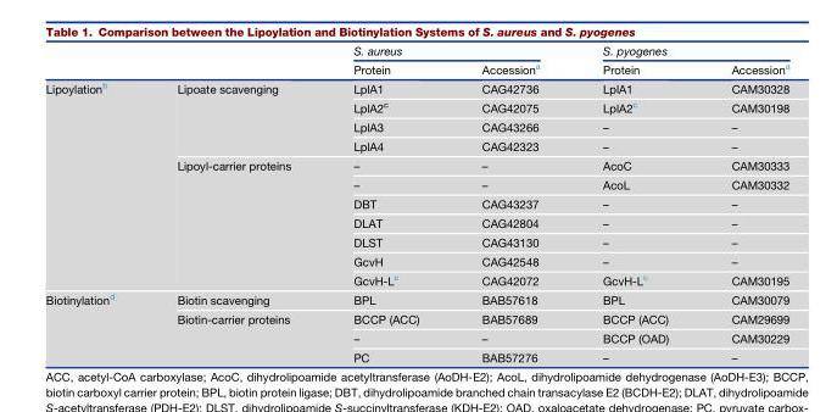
<table><thead><tr><td rowspan="2"></td><td rowspan="2"></td><td colspan="2">S. aureus</td><td colspan="2">S. pyogenes</td></tr><tr><td>Protein</td><td>Accession<sup>a</sup></td><td>Protein</td><td>Accession<sup>a</sup></td></tr></thead><tbody><tr><td rowspan="11">Lipoylation<sup>b</sup></td><td rowspan="4">Lipoate scavenging</td><td>LplA1</td><td>CAG42736</td><td>LplA1</td><td>CAM30328</td></tr><tr><td>LplA2<sup>c</sup></td><td>CAG42075</td><td>LplA2<sup>c</sup></td><td>CAM30198</td></tr><tr><td>LplA3</td><td>CAG43266</td><td>–</td><td>–</td></tr><tr><td>LplA4</td><td>CAG42323</td><td>–</td><td>–</td></tr><tr><td rowspan="7">Lipoyl-carrier proteins</td><td>–</td><td>–</td><td>AcoC</td><td>CAM30333</td></tr><tr><td>–</td><td>–</td><td>AcoL</td><td>CAM30332</td></tr><tr><td>DBT</td><td>CAG43237</td><td>–</td><td>–</td></tr><tr><td>DLAT</td><td>CAG42804</td><td>–</td><td>–</td></tr><tr><td>DLST</td><td>CAG43130</td><td>–</td><td>–</td></tr><tr><td>GcvH</td><td>CAG42548</td><td>–</td><td>–</td></tr><tr><td>GcvH-L<sup>c</sup></td><td>CAG42072</td><td>GcvH-L<sup>c</sup></td><td>CAM30195</td></tr><tr><td rowspan="4">Biotinylation<sup>d</sup></td><td>Biotin scavenging</td><td>BPL</td><td>BAB57618</td><td>BPL</td><td>CAM30079</td></tr><tr><td rowspan="3">Biotin-carrier proteins</td><td>BCCP (ACC)</td><td>BAB57689</td><td>BCCP (ACC)</td><td>CAM29699</td></tr><tr><td>–</td><td>–</td><td>BCCP (OAD)</td><td>CAM30229</td></tr><tr><td>PC</td><td>BAB57276</td><td>–</td><td>–</td></tr></tbody></table>